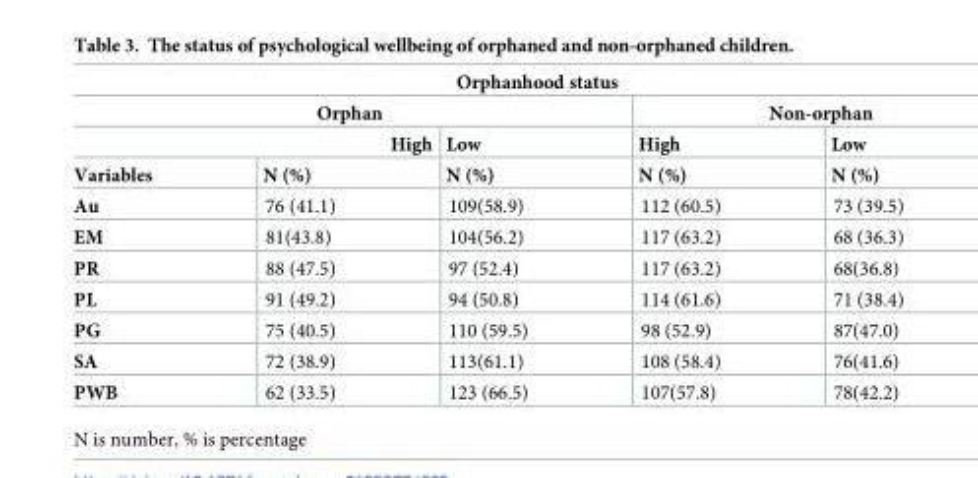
<table><thead><tr><td colspan="5">Orphanhood status</td></tr><tr><td colspan="3">Orphan</td><td colspan="2">Non-orphan</td></tr><tr><td colspan="2">High</td><td rowspan="2">Low N (%)</td><td rowspan="2">High N (%)</td><td rowspan="2">Low N (%)</td></tr><tr><td>Variables</td><td>N (%)</td></tr></thead><tbody><tr><td>Au</td><td>76 (41.1)</td><td>109(58.9)</td><td>112 (60.5)</td><td>73 (39.5)</td></tr><tr><td>EM</td><td>81(43.8)</td><td>104(56.2)</td><td>117 (63.2)</td><td>68 (36.3)</td></tr><tr><td>PR</td><td>88 (47.5)</td><td>97 (52.4)</td><td>117 (63.2)</td><td>68(36.8)</td></tr><tr><td>PL</td><td>91 (49.2)</td><td>94 (50.8)</td><td>114 (61.6)</td><td>71 (38.4)</td></tr><tr><td>PG</td><td>75 (40.5)</td><td>110 (59.5)</td><td>98 (52.9)</td><td>87(47.0)</td></tr><tr><td>SA</td><td>72 (38.9)</td><td>113(61.1)</td><td>108 (58.4)</td><td>76(41.6)</td></tr><tr><td>PWB</td><td>62 (33.5)</td><td>123 (66.5)</td><td>107(57.8)</td><td>78(42.2)</td></tr></tbody></table>